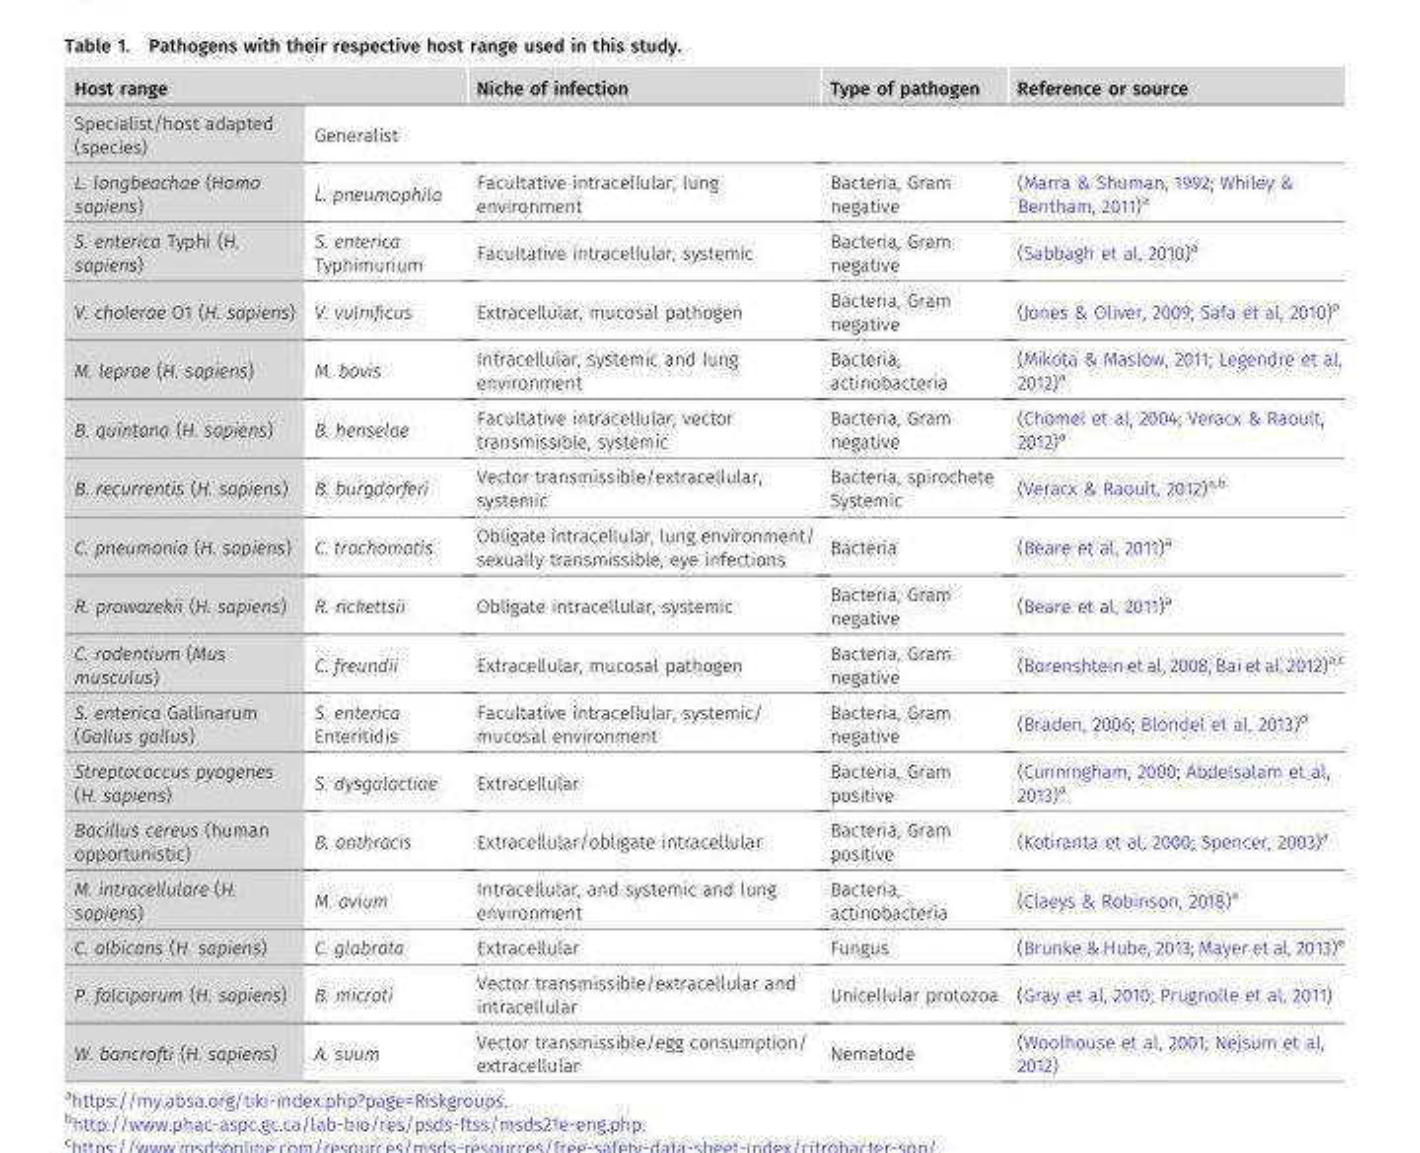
<table><thead><tr><td colspan="2">Host range</td><td rowspan="2">Niche of infection</td><td rowspan="2">Type of pathogen</td><td rowspan="2">Reference or source</td></tr><tr><td>Specialist/host adapted (species)</td><td>Generalist</td></tr></thead><tbody><tr><td>L. longbeachae (Homo sapiens)</td><td>L. pneumophila</td><td>Facultative intracellular, lung environment</td><td>Bacteria, Gram negative</td><td>(Marra &amp; Shuman, 1992; Whiley &amp; Bentham, 2011)<sup>a</sup></td></tr><tr><td>S. enterica Typhi (H. sapiens)</td><td>S. enterica Typhimurium</td><td>Facultative intracellular, systemic</td><td>Bacteria, Gram negative</td><td>(Sabbagh et al, 2010)<sup>a</sup></td></tr><tr><td>V. cholerae O1 (H. sapiens)</td><td>V. vulnificus</td><td>Extracellular, mucosal pathogen</td><td>Bacteria, Gram negative</td><td>(Jones &amp; Oliver, 2009; Safa et al, 2010)<sup>a</sup></td></tr><tr><td>M. leprae (H. sapiens)</td><td>M. bovis</td><td>Intracellular, systemic and lung environment</td><td>Bacteria, actinobacteria</td><td>(Mikota &amp; Maslow, 2011; Legendre et al, 2012)<sup>a</sup></td></tr><tr><td>B. quintana (H. sapiens)</td><td>B. henselae</td><td>Facultative intracellular, vector transmissible, systemic</td><td>Bacteria, Gram negative</td><td>(Chomel et al, 2004; Veracx &amp; Raoult, 2012)<sup>a</sup></td></tr><tr><td>B. recurrentis (H. sapiens)</td><td>B. burgdorferi</td><td>Vector transmissible/extracellular, systemic</td><td>Bacteria, spirochete Systemic</td><td>(Veracx &amp; Raoult, 2012)<sup>a,b</sup></td></tr><tr><td>C. pneumonia (H. sapiens)</td><td>C. trachomatis</td><td>Obligate intracellular, lung environment/ sexually transmissible, eye infections</td><td>Bacteria</td><td>(Beare et al, 2011)<sup>a</sup></td></tr><tr><td>R. prowazekii (H. sapiens)</td><td>R. rickettsii</td><td>Obligate intracellular, systemic</td><td>Bacteria, Gram negative</td><td>(Beare et al, 2011)<sup>a</sup></td></tr><tr><td>C. rodentium (Mus musculus)</td><td>C. freundii</td><td>Extracellular, mucosal pathogen</td><td>Bacteria, Gram negative</td><td>(Borenshtein et al, 2008; Bai et al, 2012)<sup>a,c</sup></td></tr><tr><td>S. enterica Gallinarum (Gallus gallus)</td><td>S. enterica Enteritidis</td><td>Facultative intracellular, systemic/ mucosal environment</td><td>Bacteria, Gram negative</td><td>(Braden, 2006; Blondel et al, 2013)<sup>d</sup></td></tr><tr><td>Streptococcus pyogenes (H. sapiens)</td><td>S. dysgalactiae</td><td>Extracellular</td><td>Bacteria, Gram positive</td><td>(Cunningham, 2000; Abdelsalam et al, 2013)<sup>a</sup></td></tr><tr><td>Bacillus cereus (human opportunistic)</td><td>B. anthracis</td><td>Extracellular/obligate intracellular</td><td>Bacteria, Gram positive</td><td>(Kotiranta et al, 2000; Spencer, 2003)<sup>a</sup></td></tr><tr><td>M. intracellulare (H. sapiens)</td><td>M. avium</td><td>Intracellular, and systemic and lung environment</td><td>Bacteria, actinobacteria</td><td>(Claeys &amp; Robinson, 2018)<sup>a</sup></td></tr><tr><td>C. albicans (H. sapiens)</td><td>C. glabrata</td><td>Extracellular</td><td>Fungus</td><td>(Brunke &amp; Hube, 2013; Mayer et al, 2013)<sup>e</sup></td></tr><tr><td>P. falciparum (H. sapiens)</td><td>B. microti</td><td>Vector transmissible/extracellular and intracellular</td><td>Unicellular protozoa</td><td>(Gray et al, 2010; Prugnolle et al, 2011)</td></tr><tr><td>W. bancrofti (H. sapiens)</td><td>A. suum</td><td>Vector transmissible/egg consumption/ extracellular</td><td>Nematode</td><td>(Woolhouse et al, 2001; Nejsum et al, 2012)</td></tr></tbody></table>